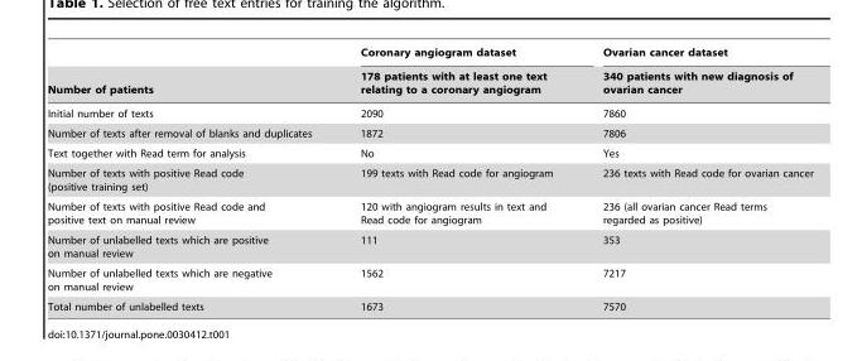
<table><thead><tr><td rowspan="2">Number of patients</td><td rowspan="2">Coronary angiogram dataset 178 patients with at least one text relating to a coronary angiogram</td><td rowspan="2">Ovarian cancer dataset 340 patients with new diagnosis of ovarian cancer</td></tr><tr></tr></thead><tbody><tr><td>Initial number of texts</td><td>2090</td><td>7860</td></tr><tr><td>Number of texts after removal of blanks and duplicates</td><td>1872</td><td>7806</td></tr><tr><td>Text together with Read term for analysis</td><td>No</td><td>Yes</td></tr><tr><td>Number of texts with positive Read code (positive training set)</td><td>199 texts with Read code for angiogram</td><td>236 texts with Read code for ovarian cancer</td></tr><tr><td>Number of texts with positive Read code and positive text on manual review</td><td>120 with angiogram results in text and Read code for angiogram</td><td>236 (all ovarian cancer Read terms regarded as positive)</td></tr><tr><td>Number of unlabelled texts which are positive on manual review</td><td>111</td><td>353</td></tr><tr><td>Number of unlabelled texts which are negative on manual review</td><td>1562</td><td>7217</td></tr><tr><td>Total number of unlabelled texts</td><td>1673</td><td>7570</td></tr></tbody></table>